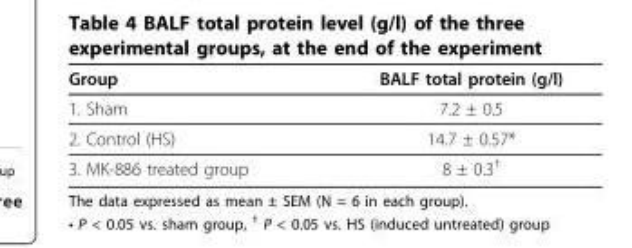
<table><thead><tr><td>Group</td><td>BALF total protein (g/l)</td></tr></thead><tbody><tr><td>1. Sham</td><td>7.2 ± 0.5</td></tr><tr><td>2. Control (HS)</td><td>14.7 ± 0.57*</td></tr><tr><td>3. MK-886 treated group</td><td>8 ± 0.3<sup>†</sup></td></tr></tbody></table>